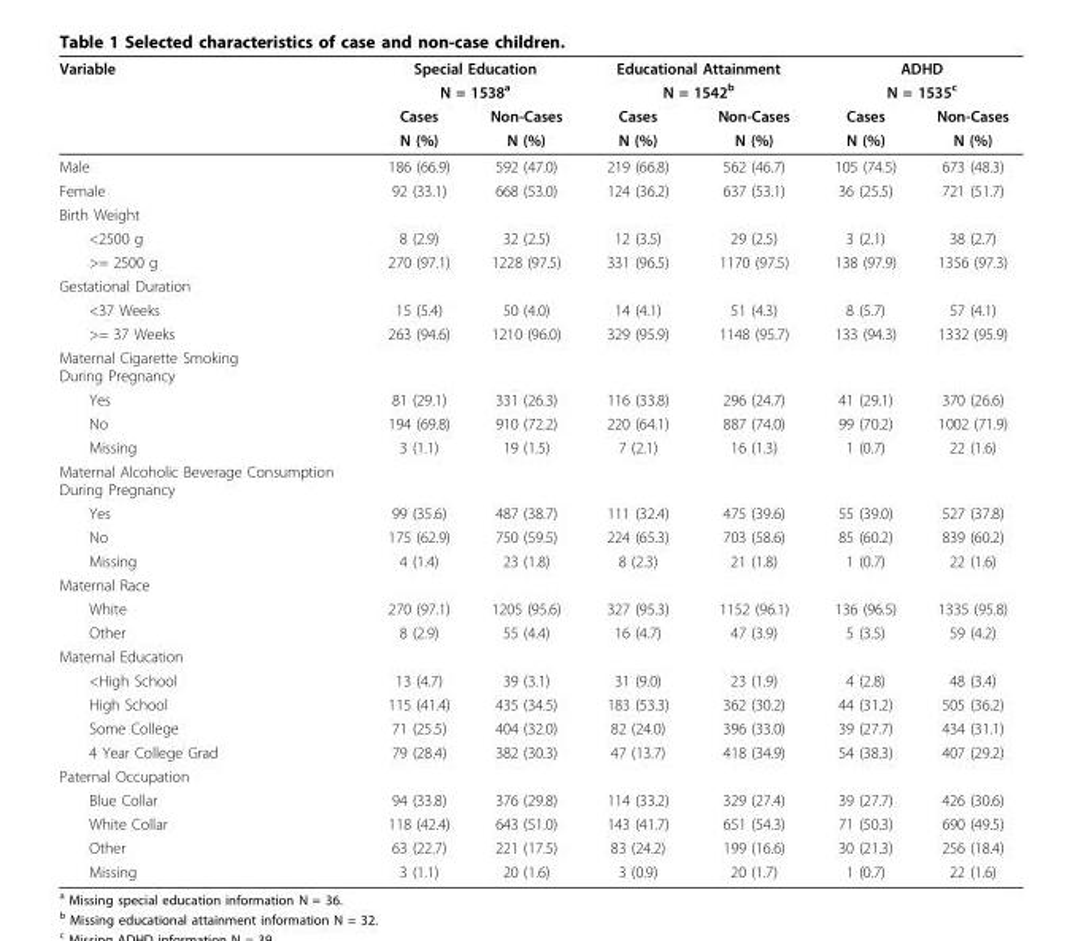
<table><thead><tr><td rowspan="4">Variable</td><td rowspan="2" colspan="2">Special Education N = 1538<sup>a</sup></td><td rowspan="2" colspan="2">Educational Attainment N = 1542<sup>b</sup></td><td rowspan="2" colspan="2">ADHD N = 1535<sup>c</sup></td></tr><tr></tr><tr><td rowspan="2">Cases N (%)</td><td rowspan="2">Non-Cases N (%)</td><td rowspan="2">Cases N (%)</td><td rowspan="2">Non-Cases N (%)</td><td rowspan="2">Cases N (%)</td><td rowspan="2">Non-Cases N (%)</td></tr><tr></tr></thead><tbody><tr><td>Male</td><td>186 (66.9)</td><td>592 (47.0)</td><td>219 (66.8)</td><td>562 (46.7)</td><td>105 (74.5)</td><td>673 (48.3)</td></tr><tr><td>Female</td><td>92 (33.1)</td><td>668 (53.0)</td><td>124 (36.2)</td><td>637 (53.1)</td><td>36 (25.5)</td><td>721 (51.7)</td></tr><tr><td colspan="7">Birth Weight</td></tr><tr><td>&lt;2500 g</td><td>8 (2.9)</td><td>32 (2.5)</td><td>12 (3.5)</td><td>29 (2.5)</td><td>3 (2.1)</td><td>38 (2.7)</td></tr><tr><td>&gt;= 2500 g</td><td>270 (97.1)</td><td>1228 (97.5)</td><td>331 (96.5)</td><td>1170 (97.5)</td><td>138 (97.9)</td><td>1356 (97.3)</td></tr><tr><td colspan="7">Gestational Duration</td></tr><tr><td>&lt;37 Weeks</td><td>15 (5.4)</td><td>50 (4.0)</td><td>14 (4.1)</td><td>51 (4.3)</td><td>8 (5.7)</td><td>57 (4.1)</td></tr><tr><td>&gt;= 37 Weeks</td><td>263 (94.6)</td><td>1210 (96.0)</td><td>329 (95.9)</td><td>1148 (95.7)</td><td>133 (94.3)</td><td>1332 (95.9)</td></tr><tr><td colspan="7">Maternal Cigarette Smoking During Pregnancy</td></tr><tr><td>Yes</td><td>81 (29.1)</td><td>331 (26.3)</td><td>116 (33.8)</td><td>296 (24.7)</td><td>41 (29.1)</td><td>370 (26.6)</td></tr><tr><td>No</td><td>194 (69.8)</td><td>910 (72.2)</td><td>220 (64.1)</td><td>887 (74.0)</td><td>99 (70.2)</td><td>1002 (71.9)</td></tr><tr><td>Missing</td><td>3 (1.1)</td><td>19 (1.5)</td><td>7 (2.1)</td><td>16 (1.3)</td><td>1 (0.7)</td><td>22 (1.6)</td></tr><tr><td colspan="7">Maternal Alcoholic Beverage Consumption During Pregnancy</td></tr><tr><td>Yes</td><td>99 (35.6)</td><td>487 (38.7)</td><td>111 (32.4)</td><td>475 (39.6)</td><td>55 (39.0)</td><td>527 (37.8)</td></tr><tr><td>No</td><td>175 (62.9)</td><td>750 (59.5)</td><td>224 (65.3)</td><td>703 (58.6)</td><td>85 (60.2)</td><td>839 (60.2)</td></tr><tr><td>Missing</td><td>4 (1.4)</td><td>23 (1.8)</td><td>8 (2.3)</td><td>21 (1.8)</td><td>1 (0.7)</td><td>22 (1.6)</td></tr><tr><td colspan="7">Maternal Race</td></tr><tr><td>White</td><td>270 (97.1)</td><td>1205 (95.6)</td><td>327 (95.3)</td><td>1152 (96.1)</td><td>136 (96.5)</td><td>1335 (95.8)</td></tr><tr><td>Other</td><td>8 (2.9)</td><td>55 (4.4)</td><td>16 (4.7)</td><td>47 (3.9)</td><td>5 (3.5)</td><td>59 (4.2)</td></tr><tr><td colspan="7">Maternal Education</td></tr><tr><td>&lt;High School</td><td>13 (4.7)</td><td>39 (3.1)</td><td>31 (9.0)</td><td>23 (1.9)</td><td>4 (2.8)</td><td>48 (3.4)</td></tr><tr><td>High School</td><td>115 (41.4)</td><td>435 (34.5)</td><td>183 (53.3)</td><td>362 (30.2)</td><td>44 (31.2)</td><td>505 (36.2)</td></tr><tr><td>Some College</td><td>71 (25.5)</td><td>404 (32.0)</td><td>82 (24.0)</td><td>396 (33.0)</td><td>39 (27.7)</td><td>434 (31.1)</td></tr><tr><td>4 Year College Grad</td><td>79 (28.4)</td><td>382 (30.3)</td><td>47 (13.7)</td><td>418 (34.9)</td><td>54 (38.3)</td><td>407 (29.2)</td></tr><tr><td colspan="7">Paternal Occupation</td></tr><tr><td>Blue Collar</td><td>94 (33.8)</td><td>376 (29.8)</td><td>114 (33.2)</td><td>329 (27.4)</td><td>39 (27.7)</td><td>426 (30.6)</td></tr><tr><td>White Collar</td><td>118 (42.4)</td><td>643 (51.0)</td><td>143 (41.7)</td><td>651 (54.3)</td><td>71 (50.3)</td><td>690 (49.5)</td></tr><tr><td>Other</td><td>63 (22.7)</td><td>221 (17.5)</td><td>83 (24.2)</td><td>199 (16.6)</td><td>30 (21.3)</td><td>256 (18.4)</td></tr><tr><td>Missing</td><td>3 (1.1)</td><td>20 (1.6)</td><td>3 (0.9)</td><td>20 (1.7)</td><td>1 (0.7)</td><td>22 (1.6)</td></tr></tbody></table>